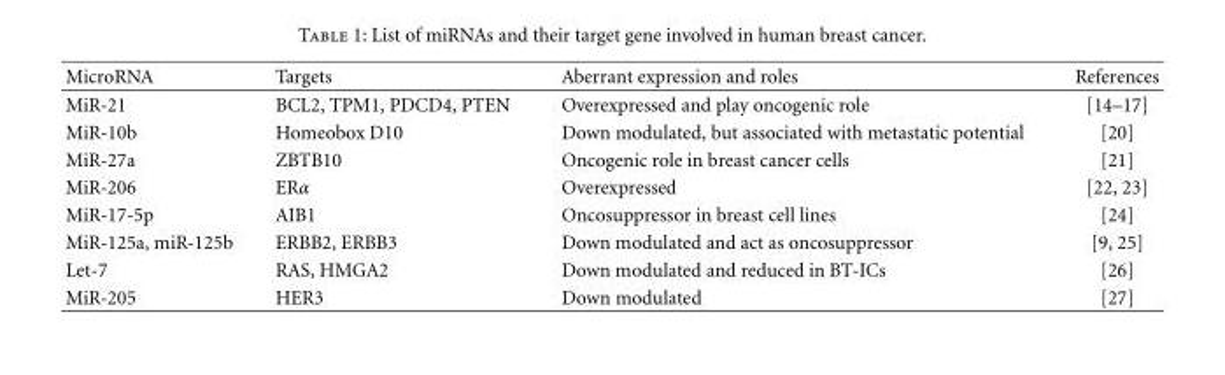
<table><thead><tr><td>MicroRNA</td><td>Targets</td><td>Aberrant expression and roles</td><td>References</td></tr></thead><tbody><tr><td>MiR-21</td><td>BCL2, TPM1, PDCD4, PTEN</td><td>Overexpressed and play oncogenic role</td><td>[14–17]</td></tr><tr><td>MiR-10b</td><td>Homeobox D10</td><td>Down modulated, but associated with metastatic potential</td><td>[20]</td></tr><tr><td>MiR-27a</td><td>ZBTB10</td><td>Oncogenic role in breast cancer cells</td><td>[21]</td></tr><tr><td>MiR-206</td><td>ERα</td><td>Overexpressed</td><td>[22, 23]</td></tr><tr><td>MiR-17-5p</td><td>AIB1</td><td>Oncosuppressor in breast cell lines</td><td>[24]</td></tr><tr><td>MiR-125a, miR-125b</td><td>ERBB2, ERBB3</td><td>Down modulated and act as oncosuppressor</td><td>[9, 25]</td></tr><tr><td>Let-7</td><td>RAS, HMGA2</td><td>Down modulated and reduced in BT-ICs</td><td>[26]</td></tr><tr><td>MiR-205</td><td>HER3</td><td>Down modulated</td><td>[27]</td></tr></tbody></table>